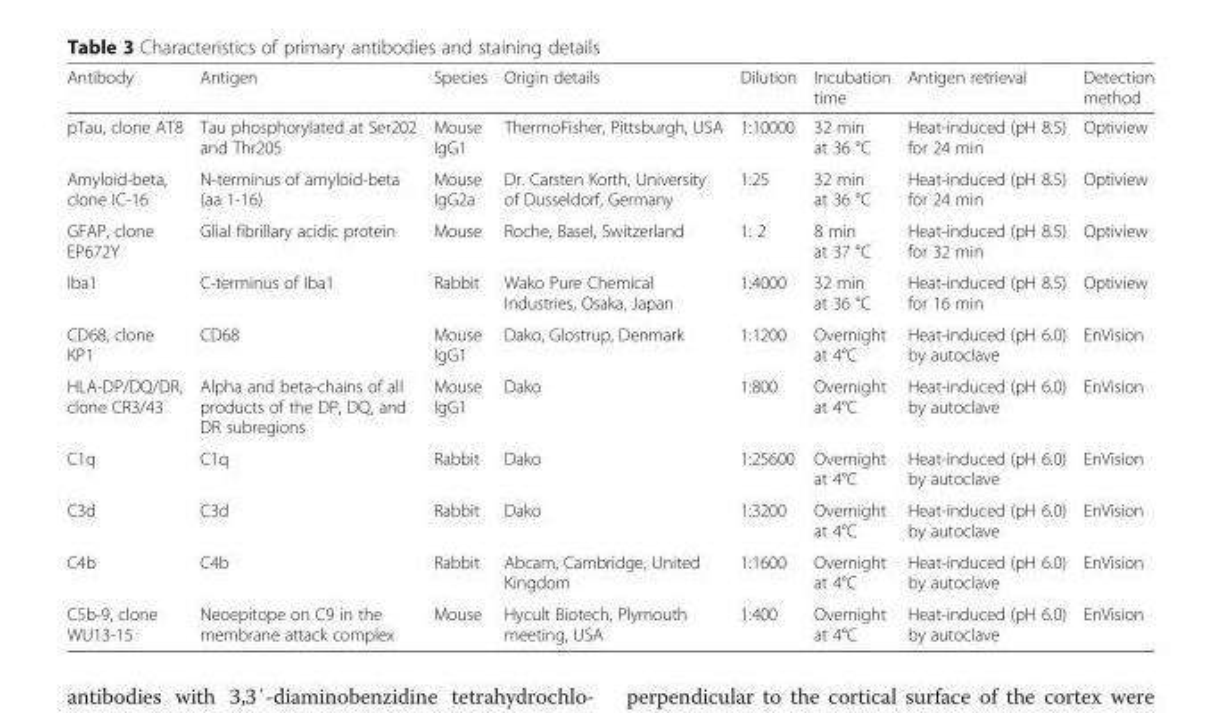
<table><thead><tr><td>Antibody</td><td>Antigen</td><td>Species</td><td>Origin details</td><td>Dilution</td><td>Incubation time</td><td>Antigen retrieval</td><td>Detection method</td></tr></thead><tbody><tr><td>pTau, clone AT8</td><td>Tau phosphorylated at Ser202 and Thr205</td><td>Mouse IgG1</td><td>ThermoFisher, Pittsburgh, USA</td><td>1:10000</td><td>32 min at 36 °C</td><td>Heat-induced (pH 8.5) for 24 min</td><td>Optiview</td></tr><tr><td>Amyloid-beta, clone IC-16</td><td>N-terminus of amyloid-beta (aa 1-16)</td><td>Mouse IgG2a</td><td>Dr. Carsten Korth, University of Dusseldorf, Germany</td><td>1:25</td><td>32 min at 36 °C</td><td>Heat-induced (pH 8.5) for 24 min</td><td>Optiview</td></tr><tr><td>GFAP, clone EP672Y</td><td>Glial fibrillary acidic protein</td><td>Mouse</td><td>Roche, Basel, Switzerland</td><td>1: 2</td><td>8 min at 37 °C</td><td>Heat-induced (pH 8.5) for 32 min</td><td>Optiview</td></tr><tr><td>Iba1</td><td>C-terminus of Iba1</td><td>Rabbit</td><td>Wako Pure Chemical Industries, Osaka, Japan</td><td>1:4000</td><td>32 min at 36 °C</td><td>Heat-induced (pH 8.5) for 16 min</td><td>Optiview</td></tr><tr><td>CD68, clone KP1</td><td>CD68</td><td>Mouse IgG1</td><td>Dako, Glostrup, Denmark</td><td>1:1200</td><td>Overnight at 4°C</td><td>Heat-induced (pH 6.0) by autoclave</td><td>EnVision</td></tr><tr><td>HLA-DP/DQ/DR, clone CR3/43</td><td>Alpha and beta-chains of all products of the DP, DQ, and DR subregions</td><td>Mouse IgG1</td><td>Dako</td><td>1:800</td><td>Overnight at 4°C</td><td>Heat-induced (pH 6.0) by autoclave</td><td>EnVision</td></tr><tr><td>C1q</td><td>C1q</td><td>Rabbit</td><td>Dako</td><td>1:25600</td><td>Overnight at 4°C</td><td>Heat-induced (pH 6.0) by autoclave</td><td>EnVision</td></tr><tr><td>C3d</td><td>C3d</td><td>Rabbit</td><td>Dako</td><td>1:3200</td><td>Overnight at 4°C</td><td>Heat-induced (pH 6.0) by autoclave</td><td>EnVision</td></tr><tr><td>C4b</td><td>C4b</td><td>Rabbit</td><td>Abcam, Cambridge, United Kingdom</td><td>1:1600</td><td>Overnight at 4°C</td><td>Heat-induced (pH 6.0) by autoclave</td><td>EnVision</td></tr><tr><td>C5b-9, clone WU13-15</td><td>Neoepitope on C9 in the membrane attack complex</td><td>Mouse</td><td>Hycult Biotech, Plymouth meeting, USA</td><td>1:400</td><td>Overnight at 4°C</td><td>Heat-induced (pH 6.0) by autoclave</td><td>EnVision</td></tr></tbody></table>